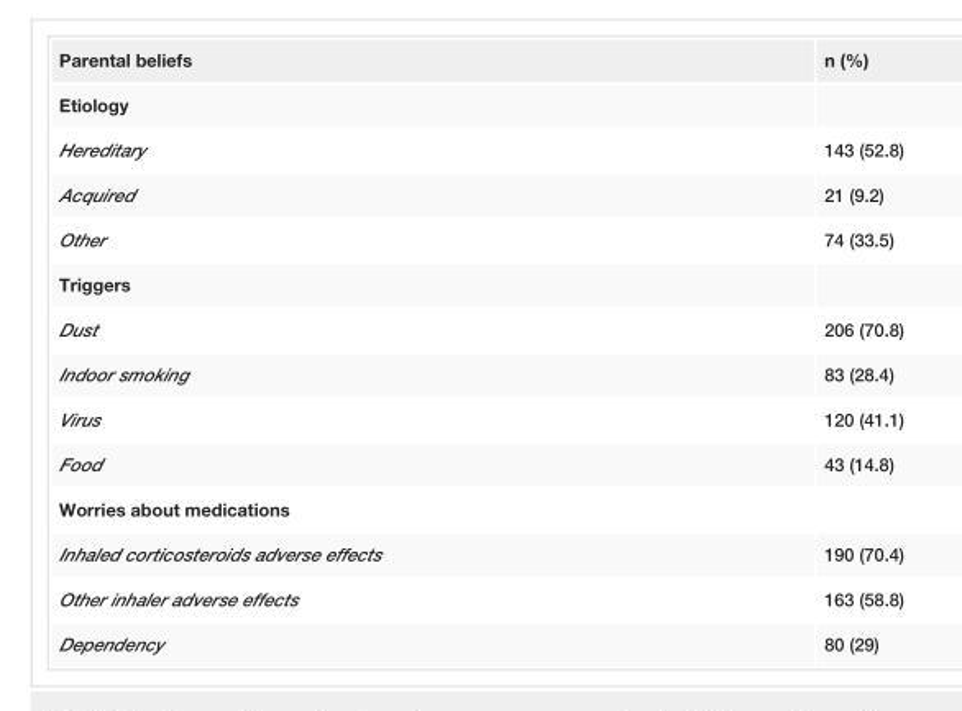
<table><tbody><tr><td>Parental beliefs</td><td>n (%)</td></tr><tr><td colspan="2">Etiology</td></tr><tr><td>Hereditary</td><td>143 (52.8)</td></tr><tr><td>Acquired</td><td>21 (9.2)</td></tr><tr><td>Other</td><td>74 (33.5)</td></tr><tr><td colspan="2">Triggers</td></tr><tr><td>Dust</td><td>206 (70.8)</td></tr><tr><td>Indoor smoking</td><td>83 (28.4)</td></tr><tr><td>Virus</td><td>120 (41.1)</td></tr><tr><td>Food</td><td>43 (14.8)</td></tr><tr><td colspan="2">Worries about medications</td></tr><tr><td>Inhaled corticosteroids adverse effects</td><td>190 (70.4)</td></tr><tr><td>Other inhaler adverse effects</td><td>163 (58.8)</td></tr><tr><td>Dependency</td><td>80 (29)</td></tr></tbody></table>